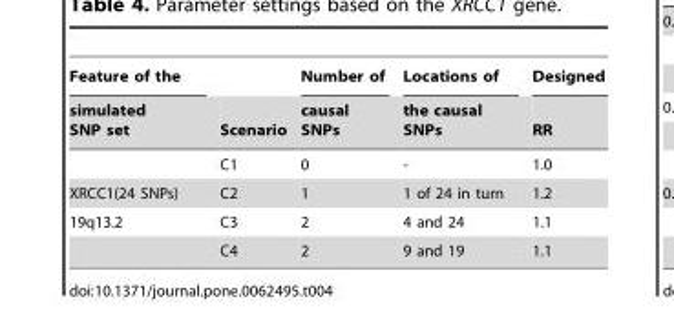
<table><thead><tr><td rowspan="2">Feature of the simulated SNP set</td><td rowspan="2">Scenario</td><td rowspan="2">Number of causal SNPs</td><td rowspan="2">Locations of the causal SNPs</td><td rowspan="2">Designed RR</td></tr><tr></tr></thead><tbody><tr><td></td><td>C1</td><td>0</td><td>-</td><td>1.0</td></tr><tr><td>XRCC1(24 SNPs)</td><td>C2</td><td>1</td><td>1 of 24 in turn</td><td>1.2</td></tr><tr><td rowspan="2">19q13.2</td><td>C3</td><td>2</td><td>4 and 24</td><td>1.1</td></tr><tr><td>C4</td><td>2</td><td>9 and 19</td><td>1.1</td></tr></tbody></table>